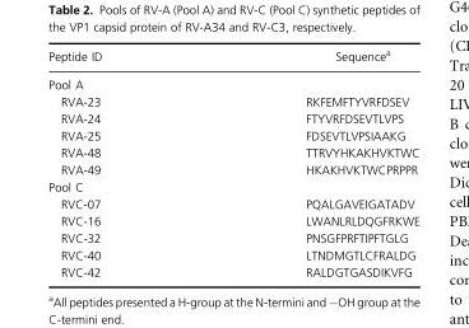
<table><thead><tr><td>Peptide ID</td><td>Sequence<sup>a</sup></td></tr></thead><tbody><tr><td colspan="2">Pool A</td></tr><tr><td>RVA-23</td><td>RKFEMFTYVRFDSEV</td></tr><tr><td>RVA-24</td><td>FTYVRFDSEVTLVPS</td></tr><tr><td>RVA-25</td><td>FDSEVTLVPSIAAKG</td></tr><tr><td>RVA-48</td><td>TTRVYHKAKHVKTWC</td></tr><tr><td>RVA-49</td><td>HKAKHVKTWCPRPPR</td></tr><tr><td colspan="2">Pool C</td></tr><tr><td>RVC-07</td><td>PQALGAVEIGATADV</td></tr><tr><td>RVC-16</td><td>LWANLRLDQGFRKWE</td></tr><tr><td>RVC-32</td><td>PNSGFPRFTIPFTGLG</td></tr><tr><td>RVC-40</td><td>LTNDMGTLCFRALDG</td></tr><tr><td>RVC-42</td><td>RALDGTGASDIKVFG</td></tr></tbody></table>